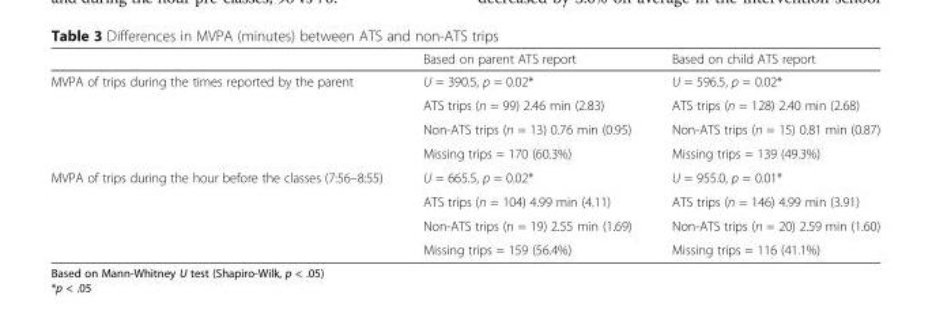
<table><thead><tr><td></td><td>Based on parent ATS report</td><td>Based on child ATS report</td></tr></thead><tbody><tr><td rowspan="4">MVPA of trips during the times reported by the parent</td><td>U = 390.5, p = 0.02*</td><td>U = 596.5, p = 0.02*</td></tr><tr><td>ATS trips (n = 99) 2.46 min (2.83)</td><td>ATS trips (n = 128) 2.40 min (2.68)</td></tr><tr><td>Non-ATS trips (n = 13) 0.76 min (0.95)</td><td>Non-ATS trips (n = 15) 0.81 min (0.87)</td></tr><tr><td>Missing trips = 170 (60.3%)</td><td>Missing trips = 139 (49.3%)</td></tr><tr><td rowspan="4">MVPA of trips during the hour before the classes (7:56–8:55)</td><td>U = 665.5, p = 0.02*</td><td>U = 955.0, p = 0.01*</td></tr><tr><td>ATS trips (n = 104) 4.99 min (4.11)</td><td>ATS trips (n = 146) 4.99 min (3.91)</td></tr><tr><td>Non-ATS trips (n = 19) 2.55 min (1.69)</td><td>Non-ATS trips (n = 20) 2.59 min (1.60)</td></tr><tr><td>Missing trips = 159 (56.4%)</td><td>Missing trips = 116 (41.1%)</td></tr></tbody></table>